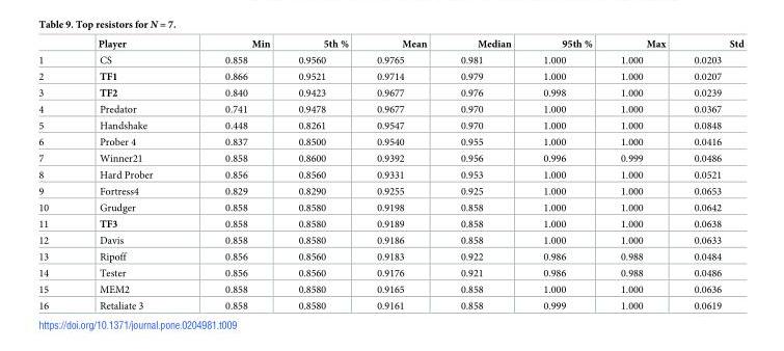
<table><thead><tr><td></td><td>Player</td><td>Min</td><td>5th %</td><td>Mean</td><td>Median</td><td>95th %</td><td>Max</td><td>Std</td></tr></thead><tbody><tr><td>1</td><td>CS</td><td>0.858</td><td>0.9560</td><td>0.9765</td><td>0.981</td><td>1.000</td><td>1.000</td><td>0.0203</td></tr><tr><td>2</td><td>TF1</td><td>0.866</td><td>0.9521</td><td>0.9714</td><td>0.979</td><td>1.000</td><td>1.000</td><td>0.0207</td></tr><tr><td>3</td><td>TF2</td><td>0.840</td><td>0.9423</td><td>0.9677</td><td>0.976</td><td>0.998</td><td>1.000</td><td>0.0239</td></tr><tr><td>4</td><td>Predator</td><td>0.741</td><td>0.9478</td><td>0.9677</td><td>0.970</td><td>1.000</td><td>1.000</td><td>0.0367</td></tr><tr><td>5</td><td>Handshake</td><td>0.448</td><td>0.8261</td><td>0.9547</td><td>0.970</td><td>1.000</td><td>1.000</td><td>0.0848</td></tr><tr><td>6</td><td>Prober 4</td><td>0.837</td><td>0.8500</td><td>0.9540</td><td>0.955</td><td>1.000</td><td>1.000</td><td>0.0416</td></tr><tr><td>7</td><td>Winner21</td><td>0.858</td><td>0.8600</td><td>0.9392</td><td>0.956</td><td>0.996</td><td>0.999</td><td>0.0486</td></tr><tr><td>8</td><td>Hard Prober</td><td>0.856</td><td>0.8560</td><td>0.9331</td><td>0.953</td><td>1.000</td><td>1.000</td><td>0.0521</td></tr><tr><td>9</td><td>Fortress4</td><td>0.829</td><td>0.8290</td><td>0.9255</td><td>0.925</td><td>1.000</td><td>1.000</td><td>0.0653</td></tr><tr><td>10</td><td>Grudger</td><td>0.858</td><td>0.8580</td><td>0.9198</td><td>0.858</td><td>1.000</td><td>1.000</td><td>0.0642</td></tr><tr><td>11</td><td>TF3</td><td>0.858</td><td>0.8580</td><td>0.9189</td><td>0.858</td><td>1.000</td><td>1.000</td><td>0.0638</td></tr><tr><td>12</td><td>Davis</td><td>0.858</td><td>0.8580</td><td>0.9186</td><td>0.858</td><td>1.000</td><td>1.000</td><td>0.0633</td></tr><tr><td>13</td><td>Ripoff</td><td>0.856</td><td>0.8560</td><td>0.9183</td><td>0.922</td><td>0.986</td><td>0.988</td><td>0.0484</td></tr><tr><td>14</td><td>Tester</td><td>0.856</td><td>0.8560</td><td>0.9176</td><td>0.921</td><td>0.986</td><td>0.988</td><td>0.0486</td></tr><tr><td>15</td><td>MEM2</td><td>0.858</td><td>0.8580</td><td>0.9165</td><td>0.858</td><td>1.000</td><td>1.000</td><td>0.0636</td></tr><tr><td>16</td><td>Retaliate 3</td><td>0.858</td><td>0.8580</td><td>0.9161</td><td>0.858</td><td>0.999</td><td>1.000</td><td>0.0619</td></tr></tbody></table>